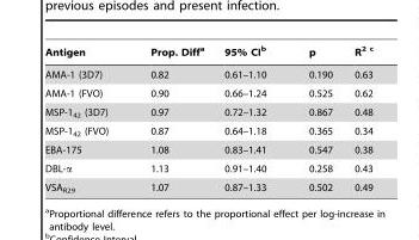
<table><thead><tr><td>Antigen</td><td>Prop. Diff<sup>a</sup></td><td>95% CI<sup>b</sup></td><td>p</td><td>R<sup>2</sup> c</td></tr></thead><tbody><tr><td>AMA-1 (3D7)</td><td>0.82</td><td>0.61–1.10</td><td>0.190</td><td>0.63</td></tr><tr><td>AMA-1 (FVO)</td><td>0.90</td><td>0.66–1.24</td><td>0.525</td><td>0.62</td></tr><tr><td>MSP-1<sub>42</sub> (3D7)</td><td>0.97</td><td>0.72–1.32</td><td>0.867</td><td>0.48</td></tr><tr><td>MSP-1<sub>42</sub> (FVO)</td><td>0.87</td><td>0.64–1.18</td><td>0.365</td><td>0.34</td></tr><tr><td>EBA-175</td><td>1.08</td><td>0.83–1.41</td><td>0.547</td><td>0.38</td></tr><tr><td>DBL-α</td><td>1.13</td><td>0.91–1.40</td><td>0.258</td><td>0.43</td></tr><tr><td>VSA<sub>R29</sub></td><td>1.07</td><td>0.87–1.33</td><td>0.502</td><td>0.49</td></tr></tbody></table>